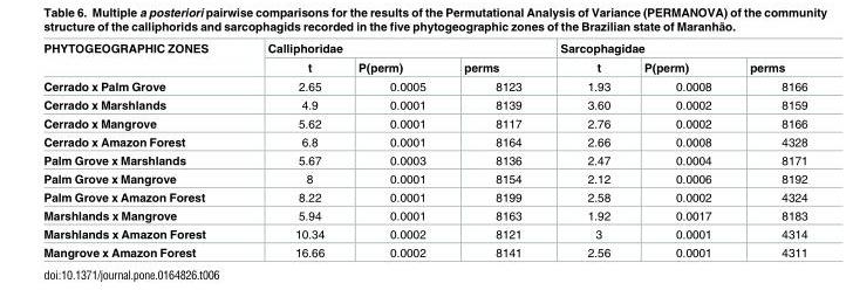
<table><thead><tr><td rowspan="2">PHYTOGEOGRAPHIC ZONES</td><td colspan="3">Calliphoridae</td><td colspan="3">Sarcophagidae</td></tr><tr><td>t</td><td>P(perm)</td><td>perms</td><td>t</td><td>P(perm)</td><td>perms</td></tr></thead><tbody><tr><td>Cerrado x Palm Grove</td><td>2.65</td><td>0.0005</td><td>8123</td><td>1.93</td><td>0.0008</td><td>8166</td></tr><tr><td>Cerrado x Marshlands</td><td>4.9</td><td>0.0001</td><td>8139</td><td>3.60</td><td>0.0002</td><td>8159</td></tr><tr><td>Cerrado x Mangrove</td><td>5.62</td><td>0.0001</td><td>8117</td><td>2.76</td><td>0.0002</td><td>8166</td></tr><tr><td>Cerrado x Amazon Forest</td><td>6.8</td><td>0.0001</td><td>8164</td><td>2.66</td><td>0.0008</td><td>4328</td></tr><tr><td>Palm Grove x Marshlands</td><td>5.67</td><td>0.0003</td><td>8136</td><td>2.47</td><td>0.0004</td><td>8171</td></tr><tr><td>Palm Grove x Mangrove</td><td>8</td><td>0.0001</td><td>8154</td><td>2.12</td><td>0.0006</td><td>8192</td></tr><tr><td>Palm Grove x Amazon Forest</td><td>8.22</td><td>0.0001</td><td>8199</td><td>2.58</td><td>0.0002</td><td>4324</td></tr><tr><td>Marshlands x Mangrove</td><td>5.94</td><td>0.0001</td><td>8163</td><td>1.92</td><td>0.0017</td><td>8183</td></tr><tr><td>Marshlands x Amazon Forest</td><td>10.34</td><td>0.0002</td><td>8121</td><td>3</td><td>0.0001</td><td>4314</td></tr><tr><td>Mangrove x Amazon Forest</td><td>16.66</td><td>0.0002</td><td>8141</td><td>2.56</td><td>0.0001</td><td>4311</td></tr></tbody></table>